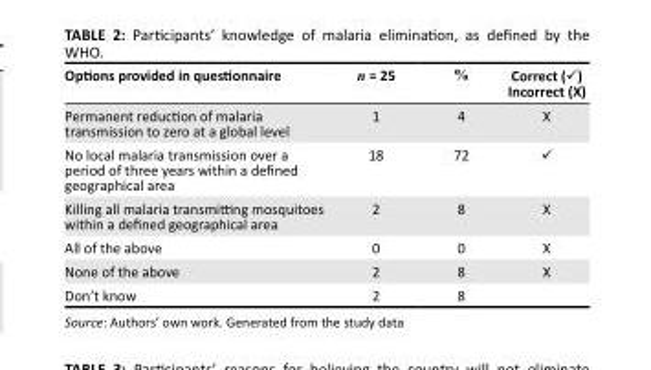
<table><thead><tr><td>Options provided in questionnaire</td><td>n = 25</td><td>%</td><td>Correct (¸) Incorrect (X)</td></tr></thead><tbody><tr><td>Permanent reduction of malaria transmission to zero at a global level</td><td>1</td><td>4</td><td>X</td></tr><tr><td>No local malaria transmission over a period of three years within a defined geographical area</td><td>18</td><td>72</td><td>¸</td></tr><tr><td>Killing all malaria transmitting mosquitoes within a defined geographical area</td><td>2</td><td>8</td><td>X</td></tr><tr><td>All of the above</td><td>0</td><td>0</td><td>X</td></tr><tr><td>None of the above</td><td>2</td><td>8</td><td>X</td></tr><tr><td>Don’t know</td><td>2</td><td>8</td><td></td></tr></tbody></table>